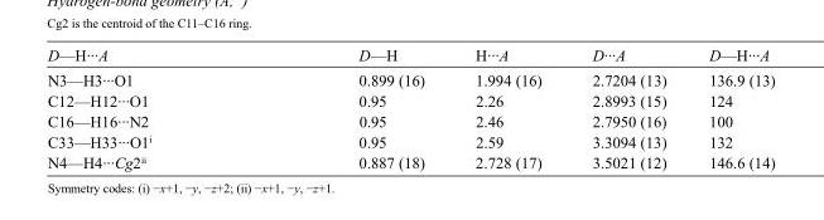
<table><tbody><tr><td>D—H···A</td><td>D—H</td><td>H···A</td><td>D···A</td><td>D—H···A</td></tr><tr><td>N3—H3···O1</td><td>0.899 (16)</td><td>1.994 (16)</td><td>2.7204 (13)</td><td>136.9 (13)</td></tr><tr><td>C12—H12···O1</td><td>0.95</td><td>2.26</td><td>2.8993 (15)</td><td>124</td></tr><tr><td>C16—H16···N2</td><td>0.95</td><td>2.46</td><td>2.7950 (16)</td><td>100</td></tr><tr><td>C33—H33···O1<sup>i</sup></td><td>0.95</td><td>2.59</td><td>3.3094 (13)</td><td>132</td></tr><tr><td>N4—H4···Cg2<sup>ii</sup></td><td>0.887 (18)</td><td>2.728 (17)</td><td>3.5021 (12)</td><td>146.6 (14)</td></tr></tbody></table>